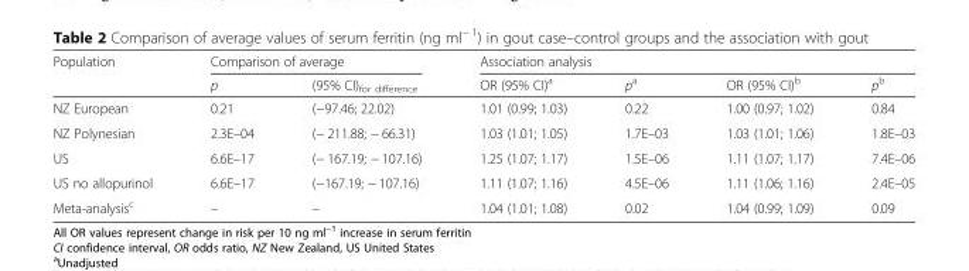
<table><thead><tr><td rowspan="2">Population</td><td colspan="2">Comparison of average</td><td colspan="4">Association analysis</td></tr><tr><td>p</td><td>(95% CI)<sub>for difference</sub></td><td>OR (95% CI)<sup>a</sup></td><td>p<sup>a</sup></td><td>OR (95% CI)<sup>b</sup></td><td>p<sup>b</sup></td></tr></thead><tbody><tr><td>NZ European</td><td>0.21</td><td>(−97.46; 22.02)</td><td>1.01 (0.99; 1.03)</td><td>0.22</td><td>1.00 (0.97; 1.02)</td><td>0.84</td></tr><tr><td>NZ Polynesian</td><td>2.3E–04</td><td>(− 211.88; − 66.31)</td><td>1.03 (1.01; 1.05)</td><td>1.7E–03</td><td>1.03 (1.01; 1.06)</td><td>1.8E–03</td></tr><tr><td>US</td><td>6.6E–17</td><td>(− 167.19; − 107.16)</td><td>1.25 (1.07; 1.17)</td><td>1.5E–06</td><td>1.11 (1.07; 1.17)</td><td>7.4E–06</td></tr><tr><td>US no allopurinol</td><td>6.6E–17</td><td>(−167.19; − 107.16)</td><td>1.11 (1.07; 1.16)</td><td>4.5E–06</td><td>1.11 (1.06; 1.16)</td><td>2.4E–05</td></tr><tr><td>Meta-analysis<sup>c</sup></td><td>–</td><td>–</td><td>1.04 (1.01; 1.08)</td><td>0.02</td><td>1.04 (0.99; 1.09)</td><td>0.09</td></tr></tbody></table>